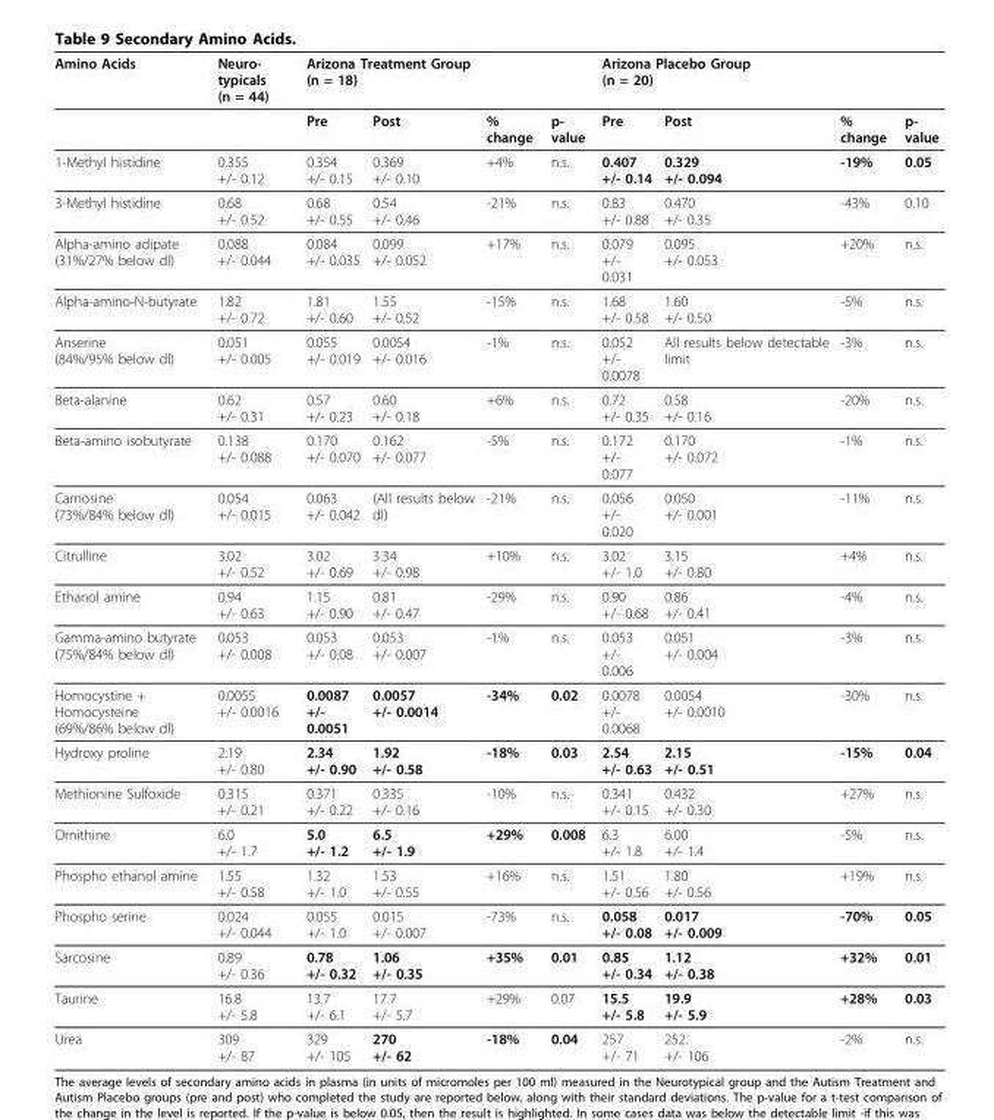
<table><thead><tr><td rowspan="2">Amino Acids</td><td rowspan="2">Neuro- typicals (n = 44)</td><td colspan="4">Arizona Treatment Group (n = 18)</td><td colspan="4">Arizona Placebo Group (n = 20)</td></tr><tr><td>Pre</td><td>Post</td><td>% change</td><td>p- value</td><td>Pre</td><td>Post</td><td>% change</td><td>p- value</td></tr></thead><tbody><tr><td>1-Methyl histidine</td><td>0.355 +/- 0.12</td><td>0.354 +/- 0.15</td><td>0.369 +/- 0.10</td><td>+4%</td><td>n.s.</td><td>0.407 +/- 0.14</td><td>0.329 +/- 0.094</td><td>-19%</td><td>0.05</td></tr><tr><td>3-Methyl histidine</td><td>0.68 +/- 0.52</td><td>0.68 +/- 0.55</td><td>0.54 +/- 0.46</td><td>-21%</td><td>n.s.</td><td>0.83 +/- 0.88</td><td>0.470 +/- 0.35</td><td>-43%</td><td>0.10</td></tr><tr><td>Alpha-amino adipate (31%/27% below dl)</td><td>0.088 +/- 0.044</td><td>0.084 +/- 0.035</td><td>0.099 +/- 0.052</td><td>+17%</td><td>n.s.</td><td>0.079 +/- 0.031</td><td>0.095 +/- 0.053</td><td>+20%</td><td>n.s.</td></tr><tr><td>Alpha-amino-N-butyrate</td><td>1.82 +/- 0.72</td><td>1.81 +/- 0.60</td><td>1.55 +/- 0.52</td><td>-15%</td><td>n.s.</td><td>1.68 +/- 0.58</td><td>1.60 +/- 0.50</td><td>-5%</td><td>n.s.</td></tr><tr><td>Anserine (84%/95% below dl)</td><td>0.051 +/- 0.005</td><td>0.055 +/- 0.019</td><td>0.0054 +/- 0.016</td><td>-1%</td><td>n.s.</td><td>0.052 +/- 0.0078</td><td>All results below detectable limit</td><td>-3%</td><td>n.s.</td></tr><tr><td>Beta-alanine</td><td>0.62 +/- 0.31</td><td>0.57 +/- 0.23</td><td>0.60 +/- 0.18</td><td>+6%</td><td>n.s.</td><td>0.72 +/- 0.35</td><td>0.58 +/- 0.16</td><td>-20%</td><td>n.s.</td></tr><tr><td>Beta-amino isobutyrate</td><td>0.138 +/- 0.088</td><td>0.170 +/- 0.070</td><td>0.162 +/- 0.077</td><td>-5%</td><td>n.s.</td><td>0.172 +/- 0.077</td><td>0.170 +/- 0.072</td><td>-1%</td><td>n.s.</td></tr><tr><td>Carnosine (73%/84% below dl)</td><td>0.054 +/- 0.015</td><td>0.063 +/- 0.042</td><td>(All results below dl)</td><td>-21%</td><td>n.s.</td><td>0.056 +/- 0.020</td><td>0.050 +/- 0.001</td><td>-11%</td><td>n.s.</td></tr><tr><td>Citrulline</td><td>3.02 +/- 0.52</td><td>3.02 +/- 0.69</td><td>3.34 +/- 0.98</td><td>+10%</td><td>n.s.</td><td>3.02 +/- 1.0</td><td>3.15 +/- 0.80</td><td>+4%</td><td>n.s.</td></tr><tr><td>Ethanol amine</td><td>0.94 +/- 0.63</td><td>1.15 +/- 0.90</td><td>0.81 +/- 0.47</td><td>-29%</td><td>n.s.</td><td>0.90 +/- 0.68</td><td>0.86 +/- 0.41</td><td>-4%</td><td>n.s.</td></tr><tr><td>Gamma-amino butyrate (75%/84% below dl)</td><td>0.053 +/- 0.008</td><td>0.053 +/- 0.08</td><td>0.053 +/- 0.007</td><td>-1%</td><td>n.s.</td><td>0.053 +/- 0.006</td><td>0.051 +/- 0.004</td><td>-3%</td><td>n.s.</td></tr><tr><td>Homocystine + Homocysteine (69%/86% below dl)</td><td>0.0055 +/- 0.0016</td><td>0.0087 +/- 0.0051</td><td>0.0057 +/- 0.0014</td><td>-34%</td><td>0.02</td><td>0.0078 +/- 0.0068</td><td>0.0054 +/- 0.0010</td><td>-30%</td><td>n.s.</td></tr><tr><td>Hydroxy proline</td><td>2.19 +/- 0.80</td><td>2.34 +/- 0.90</td><td>1.92 +/- 0.58</td><td>-18%</td><td>0.03</td><td>2.54 +/- 0.63</td><td>2.15 +/- 0.51</td><td>-15%</td><td>0.04</td></tr><tr><td>Methionine Sulfoxide</td><td>0.315 +/- 0.21</td><td>0.371 +/- 0.22</td><td>0.335 +/- 0.16</td><td>-10%</td><td>n.s.</td><td>0.341 +/- 0.15</td><td>0.432 +/- 0.30</td><td>+27%</td><td>n.s.</td></tr><tr><td>Ornithine</td><td>6.0 +/- 1.7</td><td>5.0 +/- 1.2</td><td>6.5 +/- 1.9</td><td>+29%</td><td>0.008</td><td>6.3 +/- 1.8</td><td>6.00 +/- 1.4</td><td>-5%</td><td>n.s.</td></tr><tr><td>Phospho ethanol amine</td><td>1.55 +/- 0.58</td><td>1.32 +/- 1.0</td><td>1.53 +/- 0.55</td><td>+16%</td><td>n.s.</td><td>1.51 +/- 0.56</td><td>1.80 +/- 0.56</td><td>+19%</td><td>n.s.</td></tr><tr><td>Phospho serine</td><td>0.024 +/- 0.044</td><td>0.055 +/- 1.0</td><td>0.015 +/- 0.007</td><td>-73%</td><td>n.s.</td><td>0.058 +/- 0.08</td><td>0.017 +/- 0.009</td><td>-70%</td><td>0.05</td></tr><tr><td>Sarcosine</td><td>0.89 +/- 0.36</td><td>0.78 +/- 0.32</td><td>1.06 +/- 0.35</td><td>+35%</td><td>0.01</td><td>0.85 +/- 0.34</td><td>1.12 +/- 0.38</td><td>+32%</td><td>0.01</td></tr><tr><td>Taurine</td><td>16.8 +/- 5.8</td><td>13.7 +/- 6.1</td><td>17.7 +/- 5.7</td><td>+29%</td><td>0.07</td><td>15.5 +/- 5.8</td><td>19.9 +/- 5.9</td><td>+28%</td><td>0.03</td></tr><tr><td>Urea</td><td>309 +/- 87</td><td>329 +/- 105</td><td>270 +/- 62</td><td>-18%</td><td>0.04</td><td>257 +/- 71</td><td>252. +/- 106</td><td>-2%</td><td>n.s.</td></tr></tbody></table>